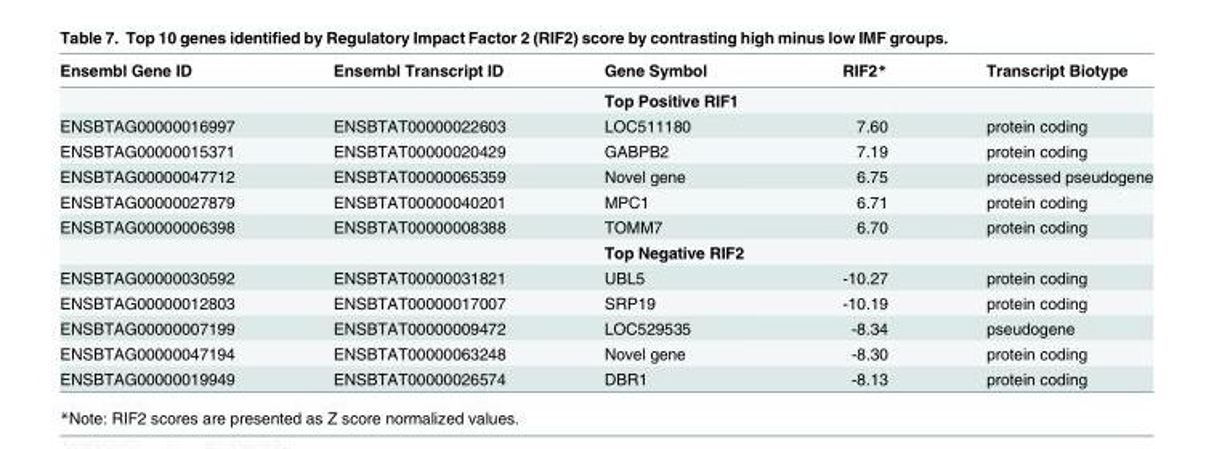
<table><thead><tr><td>Ensembl Gene ID</td><td>Ensembl Transcript ID</td><td>Gene Symbol</td><td>RIF2*</td><td>Transcript Biotype</td></tr></thead><tbody><tr><td></td><td></td><td>Top Positive RIF1</td><td></td><td></td></tr><tr><td>ENSBTAG00000016997</td><td>ENSBTAT00000022603</td><td>LOC511180</td><td>7.60</td><td>protein coding</td></tr><tr><td>ENSBTAG00000015371</td><td>ENSBTAT00000020429</td><td>GABPB2</td><td>7.19</td><td>protein coding</td></tr><tr><td>ENSBTAG00000047712</td><td>ENSBTAT00000065359</td><td>Novel gene</td><td>6.75</td><td>processed pseudogene</td></tr><tr><td>ENSBTAG00000027879</td><td>ENSBTAT00000040201</td><td>MPC1</td><td>6.71</td><td>protein coding</td></tr><tr><td rowspan="2">ENSBTAG00000006398</td><td>ENSBTAT00000008388</td><td>TOMM7</td><td>6.70</td><td>protein coding</td></tr><tr><td></td><td>Top Negative RIF2</td><td></td><td></td></tr><tr><td>ENSBTAG00000030592</td><td>ENSBTAT00000031821</td><td>UBL5</td><td>-10.27</td><td>protein coding</td></tr><tr><td>ENSBTAG00000012803</td><td>ENSBTAT00000017007</td><td>SRP19</td><td>-10.19</td><td>protein coding</td></tr><tr><td>ENSBTAG00000007199</td><td>ENSBTAT00000009472</td><td>LOC529535</td><td>-8.34</td><td>pseudogene</td></tr><tr><td>ENSBTAG00000047194</td><td>ENSBTAT00000063248</td><td>Novel gene</td><td>-8.30</td><td>protein coding</td></tr><tr><td>ENSBTAG00000019949</td><td>ENSBTAT00000026574</td><td>DBR1</td><td>-8.13</td><td>protein coding</td></tr></tbody></table>